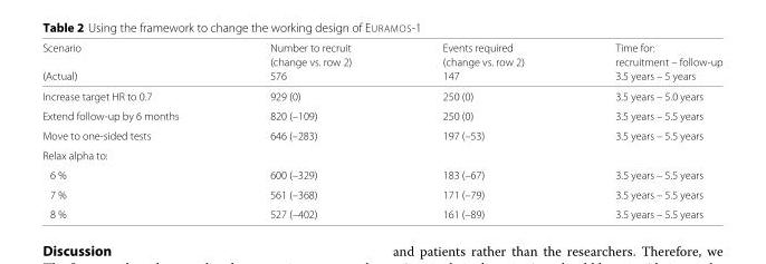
<table><thead><tr><td rowspan="3">Scenario (Actual)</td><td rowspan="3">Number to recruit (change vs. row 2) 576</td><td rowspan="3">Events required (change vs. row 2) 147</td><td rowspan="3">Time for: recruitment – follow-up 3.5 years – 5 years</td></tr><tr></tr><tr></tr></thead><tbody><tr><td>Increase target HR to 0.7</td><td>929 (0)</td><td>250 (0)</td><td>3.5 years – 5.0 years</td></tr><tr><td>Extend follow-up by 6 months</td><td>820 (–109)</td><td>250 (0)</td><td>3.5 years – 5.5 years</td></tr><tr><td>Move to one-sided tests</td><td>646 (–283)</td><td>197 (–53)</td><td>3.5 years – 5.5 years</td></tr><tr><td colspan="4">Relax alpha to:</td></tr><tr><td>6 %</td><td>600 (–329)</td><td>183 (–67)</td><td>3.5 years – 5.5 years</td></tr><tr><td>7 %</td><td>561 (–368)</td><td>171 (–79)</td><td>3.5 years – 5.5 years</td></tr><tr><td>8 %</td><td>527 (–402)</td><td>161 (–89)</td><td>3.5 years – 5.5 years</td></tr></tbody></table>